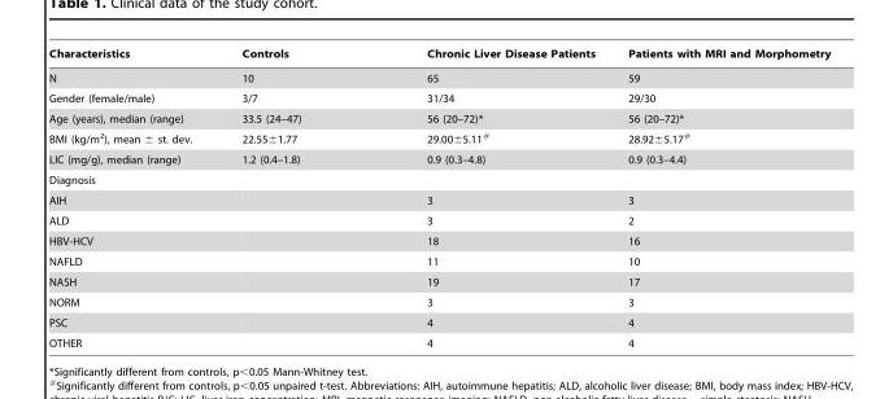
<table><thead><tr><td>Characteristics</td><td>Controls</td><td>Chronic Liver Disease Patients</td><td>Patients with MRI and Morphometry</td></tr></thead><tbody><tr><td>N</td><td>10</td><td>65</td><td>59</td></tr><tr><td>Gender (female/male)</td><td>3/7</td><td>31/34</td><td>29/30</td></tr><tr><td>Age (years), median (range)</td><td>33.5 (24–47)</td><td>56 (20–72)*</td><td>56 (20–72)*</td></tr><tr><td>BMI (kg/m<sup>2</sup>), mean ± st. dev.</td><td>22.55±1.77</td><td>29.00±5.11#</td><td>28.92±5.17#</td></tr><tr><td>LIC (mg/g), median (range)</td><td>1.2 (0.4–1.8)</td><td>0.9 (0.3–4.8)</td><td>0.9 (0.3–4.4)</td></tr><tr><td colspan="4">Diagnosis</td></tr><tr><td>AIH</td><td></td><td>3</td><td>3</td></tr><tr><td>ALD</td><td></td><td>3</td><td>2</td></tr><tr><td>HBV-HCV</td><td></td><td>18</td><td>16</td></tr><tr><td>NAFLD</td><td></td><td>11</td><td>10</td></tr><tr><td>NASH</td><td></td><td>19</td><td>17</td></tr><tr><td>NORM</td><td></td><td>3</td><td>3</td></tr><tr><td>PSC</td><td></td><td>4</td><td>4</td></tr><tr><td>OTHER</td><td></td><td>4</td><td>4</td></tr></tbody></table>